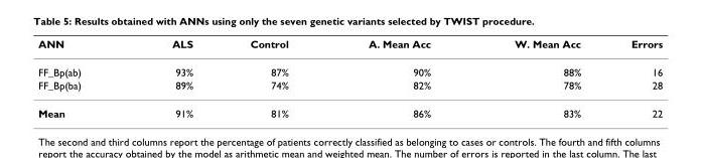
<table><thead><tr><td>ANN</td><td>ALS</td><td>Control</td><td>A. Mean Acc</td><td>W. Mean Acc</td><td>Errors</td></tr></thead><tbody><tr><td>FF_Bp(ab)</td><td>93%</td><td>87%</td><td>90%</td><td>88%</td><td>16</td></tr><tr><td>FF_Bp(ba)</td><td>89%</td><td>74%</td><td>82%</td><td>78%</td><td>28</td></tr><tr><td>Mean</td><td>91%</td><td>81%</td><td>86%</td><td>83%</td><td>22</td></tr></tbody></table>